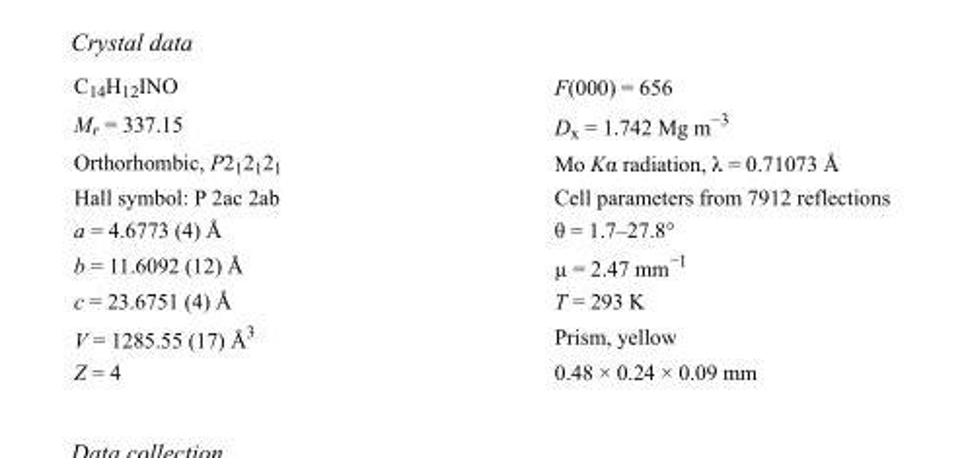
<table><tbody><tr><td>C<sub>14</sub>H<sub>12</sub>INO</td><td>F(000) = 656</td></tr><tr><td>M<sub>r</sub> = 337.15</td><td>D<sub>x</sub> = 1.742 Mg m<sup>−3</sup></td></tr><tr><td>Orthorhombic, P2<sub>1</sub>2<sub>1</sub>2<sub>1</sub></td><td>Mo Kα radiation, λ = 0.71073 Å</td></tr><tr><td>Hall symbol: P 2ac 2ab</td><td>Cell parameters from 7912 reflections</td></tr><tr><td>a = 4.6773 (4) Å</td><td>θ = 1.7–27.8°</td></tr><tr><td>b = 11.6092 (12) Å</td><td>µ = 2.47 mm<sup>−1</sup></td></tr><tr><td>c = 23.6751 (4) Å</td><td>T = 293 K</td></tr><tr><td>V = 1285.55 (17) Å<sup>3</sup></td><td>Prism, yellow</td></tr><tr><td>Z = 4</td><td>0.48 × 0.24 × 0.09 mm</td></tr></tbody></table>